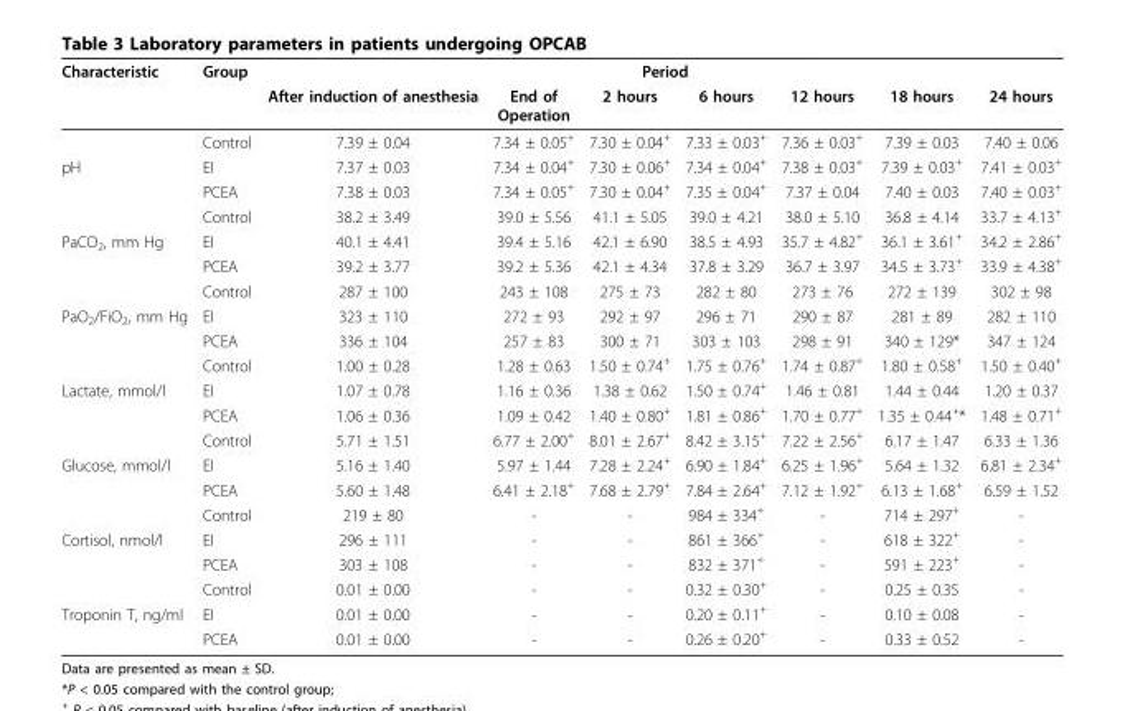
<table><thead><tr><td rowspan="2">Characteristic</td><td rowspan="2">Group</td><td colspan="7">Period</td></tr><tr><td>After induction of anesthesia</td><td>End of Operation</td><td>2 hours</td><td>6 hours</td><td>12 hours</td><td>18 hours</td><td>24 hours</td></tr></thead><tbody><tr><td></td><td>Control</td><td>7.39 ± 0.04</td><td>7.34 ± 0.05<sup>+</sup></td><td>7.30 ± 0.04<sup>+</sup></td><td>7.33 ± 0.03<sup>+</sup></td><td>7.36 ± 0.03<sup>+</sup></td><td>7.39 ± 0.03</td><td>7.40 ± 0.06</td></tr><tr><td rowspan="3">pH</td><td>EI</td><td>7.37 ± 0.03</td><td>7.34 ± 0.04<sup>+</sup></td><td>7.30 ± 0.06<sup>+</sup></td><td>7.34 ± 0.04<sup>+</sup></td><td>7.38 ± 0.03<sup>+</sup></td><td>7.39 ± 0.03<sup>+</sup></td><td>7.41 ± 0.03<sup>+</sup></td></tr><tr><td>PCEA</td><td>7.38 ± 0.03</td><td>7.34 ± 0.05<sup>+</sup></td><td>7.30 ± 0.04<sup>+</sup></td><td>7.35 ± 0.04<sup>+</sup></td><td>7.37 ± 0.04</td><td>7.40 ± 0.03</td><td>7.40 ± 0.03<sup>+</sup></td></tr><tr><td>Control</td><td>38.2 ± 3.49</td><td>39.0 ± 5.56</td><td>41.1 ± 5.05</td><td>39.0 ± 4.21</td><td>38.0 ± 5.10</td><td>36.8 ± 4.14</td><td>33.7 ± 4.13<sup>+</sup></td></tr><tr><td rowspan="3">PaCO<sub>2</sub>, mm Hg</td><td>EI</td><td>40.1 ± 4.41</td><td>39.4 ± 5.16</td><td>42.1 ± 6.90</td><td>38.5 ± 4.93</td><td>35.7 ± 4.82<sup>+</sup></td><td>36.1 ± 3.61<sup>+</sup></td><td>34.2 ± 2.86<sup>+</sup></td></tr><tr><td>PCEA</td><td>39.2 ± 3.77</td><td>39.2 ± 5.36</td><td>42.1 ± 4.34</td><td>37.8 ± 3.29</td><td>36.7 ± 3.97</td><td>34.5 ± 3.73<sup>+</sup></td><td>33.9 ± 4.38<sup>+</sup></td></tr><tr><td>Control</td><td>287 ± 100</td><td>243 ± 108</td><td>275 ± 73</td><td>282 ± 80</td><td>273 ± 76</td><td>272 ± 139</td><td>302 ± 98</td></tr><tr><td rowspan="3">PaO<sub>2</sub>/FiO<sub>2</sub>, mm Hg</td><td>EI</td><td>323 ± 110</td><td>272 ± 93</td><td>292 ± 97</td><td>296 ± 71</td><td>290 ± 87</td><td>281 ± 89</td><td>282 ± 110</td></tr><tr><td>PCEA</td><td>336 ± 104</td><td>257 ± 83</td><td>300 ± 71</td><td>303 ± 103</td><td>298 ± 91</td><td>340 ± 129*</td><td>347 ± 124</td></tr><tr><td>Control</td><td>1.00 ± 0.28</td><td>1.28 ± 0.63</td><td>1.50 ± 0.74<sup>+</sup></td><td>1.75 ± 0.76<sup>+</sup></td><td>1.74 ± 0.87<sup>+</sup></td><td>1.80 ± 0.58<sup>+</sup></td><td>1.50 ± 0.40<sup>+</sup></td></tr><tr><td rowspan="3">Lactate, mmol/l</td><td>EI</td><td>1.07 ± 0.78</td><td>1.16 ± 0.36</td><td>1.38 ± 0.62</td><td>1.50 ± 0.74<sup>+</sup></td><td>1.46 ± 0.81</td><td>1.44 ± 0.44</td><td>1.20 ± 0.37</td></tr><tr><td>PCEA</td><td>1.06 ± 0.36</td><td>1.09 ± 0.42</td><td>1.40 ± 0.80<sup>+</sup></td><td>1.81 ± 0.86<sup>+</sup></td><td>1.70 ± 0.77<sup>+</sup></td><td>1.35 ± 0.44<sup>+</sup>*</td><td>1.48 ± 0.71<sup>+</sup></td></tr><tr><td>Control</td><td>5.71 ± 1.51</td><td>6.77 ± 2.00<sup>+</sup></td><td>8.01 ± 2.67<sup>+</sup></td><td>8.42 ± 3.15<sup>+</sup></td><td>7.22 ± 2.56<sup>+</sup></td><td>6.17 ± 1.47</td><td>6.33 ± 1.36</td></tr><tr><td rowspan="3">Glucose, mmol/l</td><td>EI</td><td>5.16 ± 1.40</td><td>5.97 ± 1.44</td><td>7.28 ± 2.24<sup>+</sup></td><td>6.90 ± 1.84<sup>+</sup></td><td>6.25 ± 1.96<sup>+</sup></td><td>5.64 ± 1.32</td><td>6.81 ± 2.34<sup>+</sup></td></tr><tr><td>PCEA</td><td>5.60 ± 1.48</td><td>6.41 ± 2.18<sup>+</sup></td><td>7.68 ± 2.79<sup>+</sup></td><td>7.84 ± 2.64<sup>+</sup></td><td>7.12 ± 1.92<sup>+</sup></td><td>6.13 ± 1.68<sup>+</sup></td><td>6.59 ± 1.52</td></tr><tr><td>Control</td><td>219 ± 80</td><td>-</td><td>-</td><td>984 ± 334<sup>+</sup></td><td>-</td><td>714 ± 297<sup>+</sup></td><td>-</td></tr><tr><td rowspan="3">Cortisol, nmol/l</td><td>EI</td><td>296 ± 111</td><td>-</td><td>-</td><td>861 ± 366<sup>+</sup></td><td>-</td><td>618 ± 322<sup>+</sup></td><td>-</td></tr><tr><td>PCEA</td><td>303 ± 108</td><td>-</td><td>-</td><td>832 ± 371<sup>+</sup></td><td>-</td><td>591 ± 223<sup>+</sup></td><td>-</td></tr><tr><td>Control</td><td>0.01 ± 0.00</td><td>-</td><td>-</td><td>0.32 ± 0.30<sup>+</sup></td><td>-</td><td>0.25 ± 0.35</td><td>-</td></tr><tr><td rowspan="2">Troponin T, ng/ml</td><td>EI</td><td>0.01 ± 0.00</td><td>-</td><td>-</td><td>0.20 ± 0.11<sup>+</sup></td><td>-</td><td>0.10 ± 0.08</td><td>-</td></tr><tr><td>PCEA</td><td>0.01 ± 0.00</td><td>-</td><td>-</td><td>0.26 ± 0.20<sup>+</sup></td><td>-</td><td>0.33 ± 0.52</td><td>-</td></tr></tbody></table>